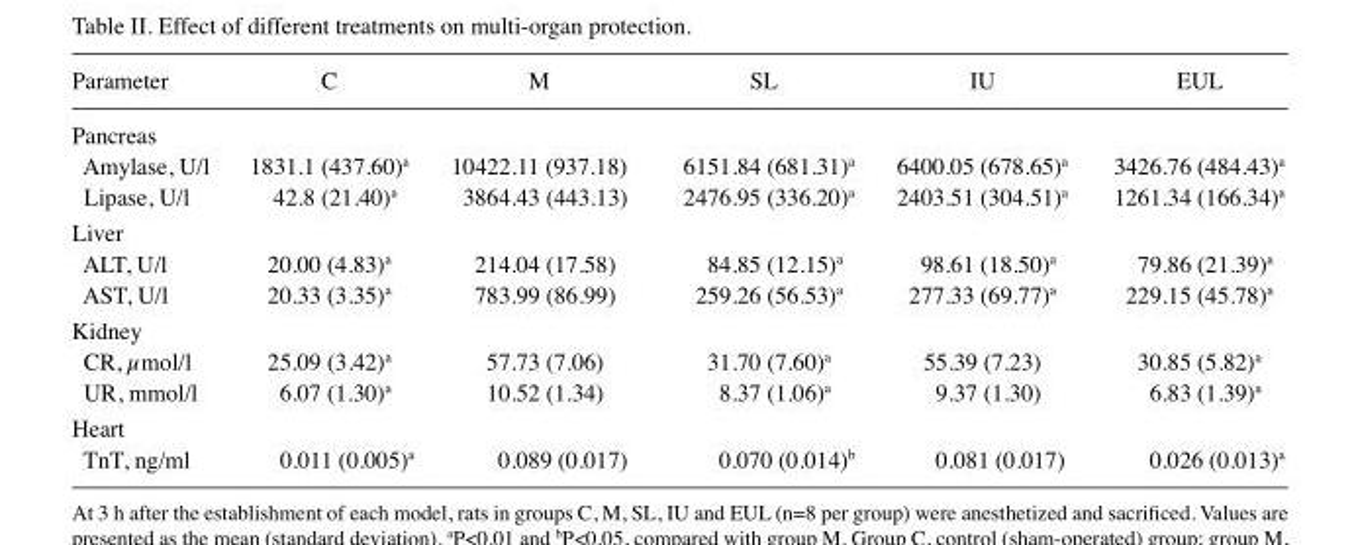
<table><thead><tr><td>Parameter</td><td>C</td><td>M</td><td>SL</td><td>IU</td><td>EUL</td></tr></thead><tbody><tr><td colspan="6">Pancreas</td></tr><tr><td>Amylase, U/l</td><td>1831.1 (437.60)<sup>a</sup></td><td>10422.11 (937.18)</td><td>6151.84 (681.31)<sup>a</sup></td><td>6400.05 (678.65)<sup>a</sup></td><td>3426.76 (484.43)<sup>a</sup></td></tr><tr><td>Lipase, U/l</td><td>42.8 (21.40)<sup>a</sup></td><td>3864.43 (443.13)</td><td>2476.95 (336.20)<sup>a</sup></td><td>2403.51 (304.51)<sup>a</sup></td><td>1261.34 (166.34)<sup>a</sup></td></tr><tr><td colspan="6">Liver</td></tr><tr><td>ALT, U/l</td><td>20.00 (4.83)<sup>a</sup></td><td>214.04 (17.58)</td><td>84.85 (12.15)<sup>a</sup></td><td>98.61 (18.50)<sup>a</sup></td><td>79.86 (21.39)<sup>a</sup></td></tr><tr><td>AST, U/l</td><td>20.33 (3.35)<sup>a</sup></td><td>783.99 (86.99)</td><td>259.26 (56.53)<sup>a</sup></td><td>277.33 (69.77)<sup>a</sup></td><td>229.15 (45.78)<sup>a</sup></td></tr><tr><td colspan="6">Kidney</td></tr><tr><td>CR, µmol/l</td><td>25.09 (3.42)<sup>a</sup></td><td>57.73 (7.06)</td><td>31.70 (7.60)<sup>a</sup></td><td>55.39 (7.23)</td><td>30.85 (5.82)<sup>a</sup></td></tr><tr><td>UR, mmol/l</td><td>6.07 (1.30)<sup>a</sup></td><td>10.52 (1.34)</td><td>8.37 (1.06)<sup>a</sup></td><td>9.37 (1.30)</td><td>6.83 (1.39)<sup>a</sup></td></tr><tr><td colspan="6">Heart</td></tr><tr><td>TnT, ng/ml</td><td>0.011 (0.005)<sup>a</sup></td><td>0.089 (0.017)</td><td>0.070 (0.014)<sup>b</sup></td><td>0.081 (0.017)</td><td>0.026 (0.013)<sup>a</sup></td></tr></tbody></table>